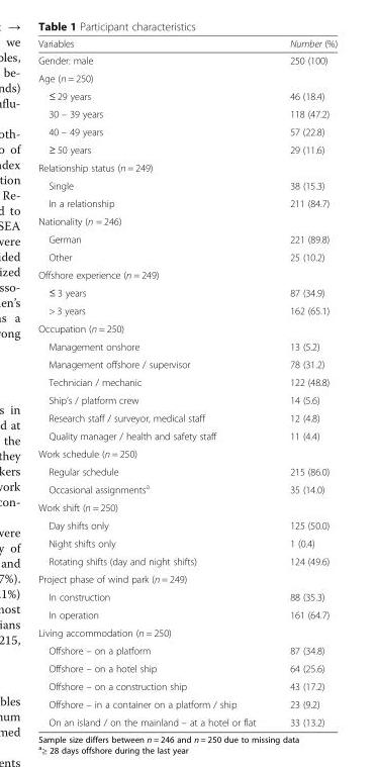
<table><thead><tr><td>Variables</td><td>Number (%)</td></tr></thead><tbody><tr><td>Gender: male</td><td>250 (100)</td></tr><tr><td colspan="2">Age (n = 250)</td></tr><tr><td>≤ 29 years</td><td>46 (18.4)</td></tr><tr><td>30 – 39 years</td><td>118 (47.2)</td></tr><tr><td>40 – 49 years</td><td>57 (22.8)</td></tr><tr><td>≥ 50 years</td><td>29 (11.6)</td></tr><tr><td colspan="2">Relationship status (n = 249)</td></tr><tr><td>Single</td><td>38 (15.3)</td></tr><tr><td>In a relationship</td><td>211 (84.7)</td></tr><tr><td colspan="2">Nationality (n = 246)</td></tr><tr><td>German</td><td>221 (89.8)</td></tr><tr><td>Other</td><td>25 (10.2)</td></tr><tr><td colspan="2">Offshore experience (n = 249)</td></tr><tr><td>≤ 3 years</td><td>87 (34.9)</td></tr><tr><td>&gt; 3 years</td><td>162 (65.1)</td></tr><tr><td colspan="2">Occupation (n = 250)</td></tr><tr><td>Management onshore</td><td>13 (5.2)</td></tr><tr><td>Management offshore / supervisor</td><td>78 (31.2)</td></tr><tr><td>Technician / mechanic</td><td>122 (48.8)</td></tr><tr><td>Ship’s / platform crew</td><td>14 (5.6)</td></tr><tr><td>Research staff / surveyor, medical staff</td><td>12 (4.8)</td></tr><tr><td>Quality manager / health and safety staff</td><td>11 (4.4)</td></tr><tr><td colspan="2">Work schedule (n = 250)</td></tr><tr><td>Regular schedule</td><td>215 (86.0)</td></tr><tr><td>Occasional assignments<sup>a</sup></td><td>35 (14.0)</td></tr><tr><td colspan="2">Work shift (n = 250)</td></tr><tr><td>Day shifts only</td><td>125 (50.0)</td></tr><tr><td>Night shifts only</td><td>1 (0.4)</td></tr><tr><td>Rotating shifts (day and night shifts)</td><td>124 (49.6)</td></tr><tr><td colspan="2">Project phase of wind park (n = 249)</td></tr><tr><td>In construction</td><td>88 (35.3)</td></tr><tr><td>In operation</td><td>161 (64.7)</td></tr><tr><td colspan="2">Living accommodation (n = 250)</td></tr><tr><td>Offshore – on a platform</td><td>87 (34.8)</td></tr><tr><td>Offshore – on a hotel ship</td><td>64 (25.6)</td></tr><tr><td>Offshore – on a construction ship</td><td>43 (17.2)</td></tr><tr><td>Offshore – in a container on a platform / ship</td><td>23 (9.2)</td></tr><tr><td>On an island / on the mainland – at a hotel or flat</td><td>33 (13.2)</td></tr></tbody></table>